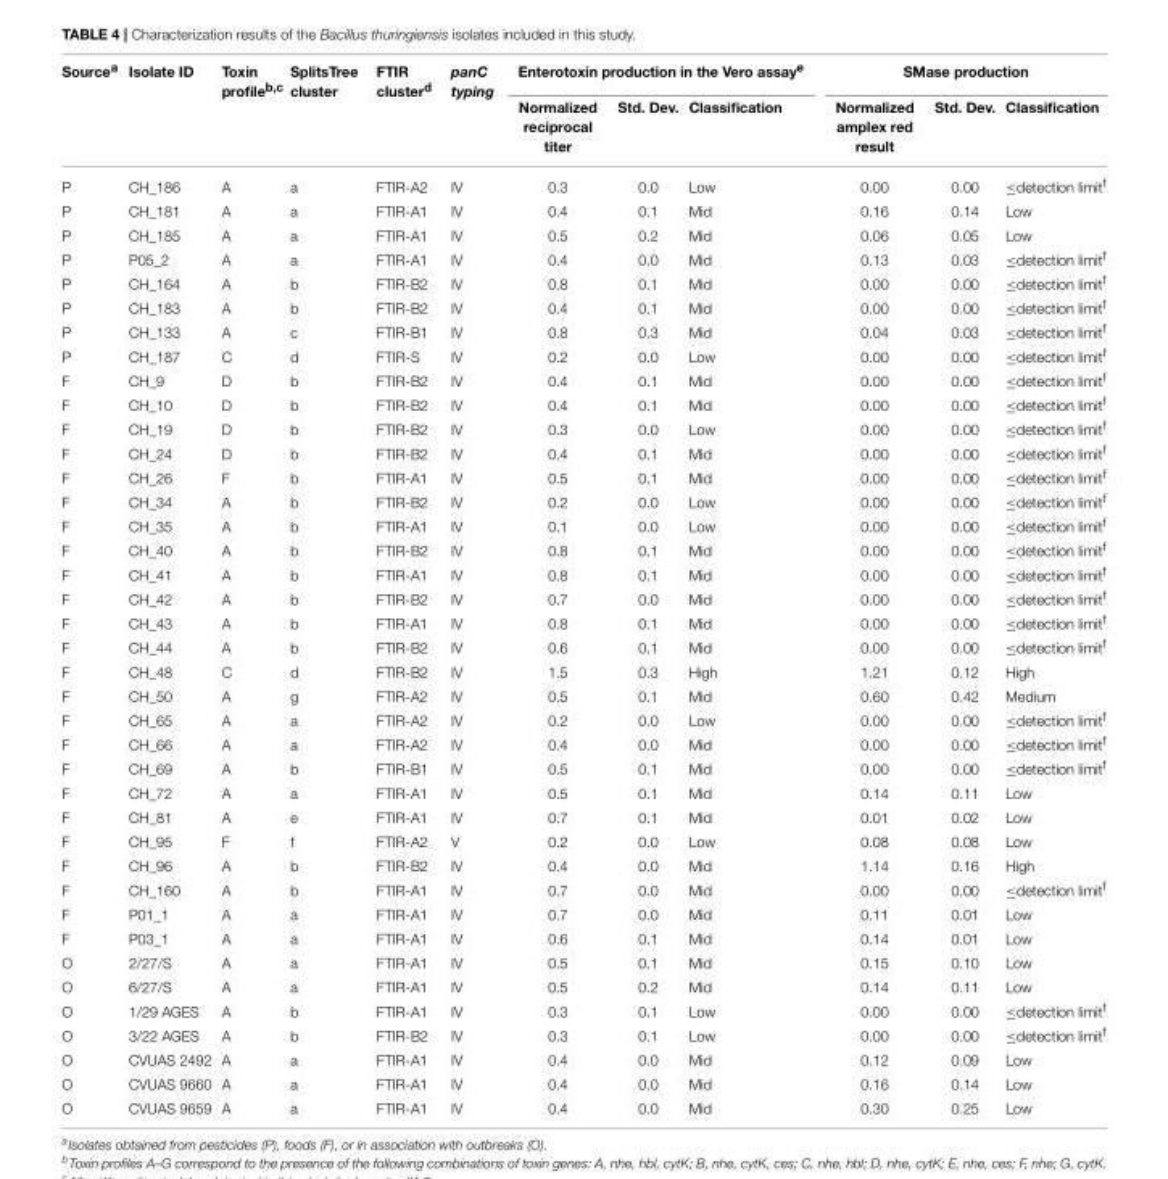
<table><thead><tr><td rowspan="2">Source<sup>a</sup></td><td rowspan="2">Isolate ID</td><td rowspan="2">Toxin profile<sup>b,c</sup></td><td rowspan="2">SplitsTree cluster</td><td rowspan="2">FTIR cluster<sup>d</sup></td><td rowspan="2">panC typing</td><td colspan="3">Enterotoxin production in the Vero assay<sup>e</sup></td><td colspan="3">SMase production</td></tr><tr><td>Normalized reciprocal titer</td><td>Std. Dev.</td><td>Classification</td><td>Normalized amplex red result</td><td>Std. Dev.</td><td>Classification</td></tr></thead><tbody><tr><td>P</td><td>CH_186</td><td>A</td><td>a</td><td>FTIR-A2</td><td>IV</td><td>0.3</td><td>0.0</td><td>Low</td><td>0.00</td><td>0.00</td><td>≤detection limit<sup>f</sup></td></tr><tr><td>P</td><td>CH_181</td><td>A</td><td>a</td><td>FTIR-A1</td><td>IV</td><td>0.4</td><td>0.1</td><td>Mid</td><td>0.16</td><td>0.14</td><td>Low</td></tr><tr><td>P</td><td>CH_185</td><td>A</td><td>a</td><td>FTIR-A1</td><td>IV</td><td>0.5</td><td>0.2</td><td>Mid</td><td>0.06</td><td>0.05</td><td>Low</td></tr><tr><td>P</td><td>P05_2</td><td>A</td><td>a</td><td>FTIR-A1</td><td>IV</td><td>0.4</td><td>0.0</td><td>Mid</td><td>0.13</td><td>0.03</td><td>≤detection limit<sup>f</sup></td></tr><tr><td>P</td><td>CH_164</td><td>A</td><td>b</td><td>FTIR-B2</td><td>IV</td><td>0.8</td><td>0.1</td><td>Mid</td><td>0.00</td><td>0.00</td><td>≤detection limit<sup>f</sup></td></tr><tr><td>P</td><td>CH_183</td><td>A</td><td>b</td><td>FTIR-B2</td><td>IV</td><td>0.4</td><td>0.1</td><td>Mid</td><td>0.00</td><td>0.00</td><td>≤detection limit<sup>f</sup></td></tr><tr><td>P</td><td>CH_133</td><td>A</td><td>c</td><td>FTIR-B1</td><td>IV</td><td>0.8</td><td>0.3</td><td>Mid</td><td>0.04</td><td>0.03</td><td>≤detection limit<sup>f</sup></td></tr><tr><td>P</td><td>CH_187</td><td>C</td><td>d</td><td>FTIR-S</td><td>IV</td><td>0.2</td><td>0.0</td><td>Low</td><td>0.00</td><td>0.00</td><td>≤detection limit<sup>f</sup></td></tr><tr><td>F</td><td>CH_9</td><td>D</td><td>b</td><td>FTIR-B2</td><td>IV</td><td>0.4</td><td>0.1</td><td>Mid</td><td>0.00</td><td>0.00</td><td>≤detection limit<sup>f</sup></td></tr><tr><td>F</td><td>CH_10</td><td>D</td><td>b</td><td>FTIR-B2</td><td>IV</td><td>0.4</td><td>0.1</td><td>Mid</td><td>0.00</td><td>0.00</td><td>≤detection limit<sup>f</sup></td></tr><tr><td>F</td><td>CH_19</td><td>D</td><td>b</td><td>FTIR-B2</td><td>IV</td><td>0.3</td><td>0.0</td><td>Low</td><td>0.00</td><td>0.00</td><td>≤detection limit<sup>f</sup></td></tr><tr><td>F</td><td>CH_24</td><td>D</td><td>b</td><td>FTIR-B2</td><td>IV</td><td>0.4</td><td>0.1</td><td>Mid</td><td>0.00</td><td>0.00</td><td>≤detection limit<sup>f</sup></td></tr><tr><td>F</td><td>CH_26</td><td>F</td><td>b</td><td>FTIR-A1</td><td>IV</td><td>0.5</td><td>0.1</td><td>Mid</td><td>0.00</td><td>0.00</td><td>≤detection limit<sup>f</sup></td></tr><tr><td>F</td><td>CH_34</td><td>A</td><td>b</td><td>FTIR-B2</td><td>IV</td><td>0.2</td><td>0.0</td><td>Low</td><td>0.00</td><td>0.00</td><td>≤detection limit<sup>f</sup></td></tr><tr><td>F</td><td>CH_35</td><td>A</td><td>b</td><td>FTIR-A1</td><td>IV</td><td>0.1</td><td>0.0</td><td>Low</td><td>0.00</td><td>0.00</td><td>≤detection limit<sup>f</sup></td></tr><tr><td>F</td><td>CH_40</td><td>A</td><td>b</td><td>FTIR-B2</td><td>IV</td><td>0.8</td><td>0.1</td><td>Mid</td><td>0.00</td><td>0.00</td><td>≤detection limit<sup>f</sup></td></tr><tr><td>F</td><td>CH_41</td><td>A</td><td>b</td><td>FTIR-A1</td><td>IV</td><td>0.8</td><td>0.1</td><td>Mid</td><td>0.00</td><td>0.00</td><td>≤detection limit<sup>f</sup></td></tr><tr><td>F</td><td>CH_42</td><td>A</td><td>b</td><td>FTIR-B2</td><td>IV</td><td>0.7</td><td>0.0</td><td>Mid</td><td>0.00</td><td>0.00</td><td>≤detection limit<sup>f</sup></td></tr><tr><td>F</td><td>CH_43</td><td>A</td><td>b</td><td>FTIR-A1</td><td>IV</td><td>0.8</td><td>0.1</td><td>Mid</td><td>0.00</td><td>0.00</td><td>≤detection limit<sup>f</sup></td></tr><tr><td>F</td><td>CH_44</td><td>A</td><td>b</td><td>FTIR-B2</td><td>IV</td><td>0.6</td><td>0.1</td><td>Mid</td><td>0.00</td><td>0.00</td><td>≤detection limit<sup>f</sup></td></tr><tr><td>F</td><td>CH_48</td><td>C</td><td>d</td><td>FTIR-B2</td><td>IV</td><td>1.5</td><td>0.3</td><td>High</td><td>1.21</td><td>0.12</td><td>High</td></tr><tr><td>F</td><td>CH_50</td><td>A</td><td>g</td><td>FTIR-A2</td><td>IV</td><td>0.5</td><td>0.1</td><td>Mid</td><td>0.60</td><td>0.42</td><td>Medium</td></tr><tr><td>F</td><td>CH_65</td><td>A</td><td>a</td><td>FTIR-A2</td><td>IV</td><td>0.2</td><td>0.0</td><td>Low</td><td>0.00</td><td>0.00</td><td>≤detection limit<sup>f</sup></td></tr><tr><td>F</td><td>CH_66</td><td>A</td><td>a</td><td>FTIR-A2</td><td>IV</td><td>0.4</td><td>0.0</td><td>Mid</td><td>0.00</td><td>0.00</td><td>≤detection limit<sup>f</sup></td></tr><tr><td>F</td><td>CH_69</td><td>A</td><td>b</td><td>FTIR-B1</td><td>IV</td><td>0.5</td><td>0.1</td><td>Mid</td><td>0.00</td><td>0.00</td><td>≤detection limit<sup>f</sup></td></tr><tr><td>F</td><td>CH_72</td><td>A</td><td>a</td><td>FTIR-A1</td><td>IV</td><td>0.5</td><td>0.1</td><td>Mid</td><td>0.14</td><td>0.11</td><td>Low</td></tr><tr><td>F</td><td>CH_81</td><td>A</td><td>e</td><td>FTIR-A1</td><td>IV</td><td>0.7</td><td>0.1</td><td>Mid</td><td>0.01</td><td>0.02</td><td>Low</td></tr><tr><td>F</td><td>CH_95</td><td>F</td><td>f</td><td>FTIR-A2</td><td>V</td><td>0.2</td><td>0.0</td><td>Low</td><td>0.08</td><td>0.08</td><td>Low</td></tr><tr><td>F</td><td>CH_96</td><td>A</td><td>b</td><td>FTIR-B2</td><td>IV</td><td>0.4</td><td>0.0</td><td>Mid</td><td>1.14</td><td>0.16</td><td>High</td></tr><tr><td>F</td><td>CH_160</td><td>A</td><td>b</td><td>FTIR-A1</td><td>IV</td><td>0.7</td><td>0.0</td><td>Mid</td><td>0.00</td><td>0.00</td><td>≤detection limit<sup>f</sup></td></tr><tr><td>F</td><td>P01_1</td><td>A</td><td>a</td><td>FTIR-A1</td><td>IV</td><td>0.7</td><td>0.0</td><td>Mid</td><td>0.11</td><td>0.01</td><td>Low</td></tr><tr><td>F</td><td>P03_1</td><td>A</td><td>a</td><td>FTIR-A1</td><td>IV</td><td>0.6</td><td>0.1</td><td>Mid</td><td>0.14</td><td>0.01</td><td>Low</td></tr><tr><td>O</td><td>2/27/S</td><td>A</td><td>a</td><td>FTIR-A1</td><td>IV</td><td>0.5</td><td>0.1</td><td>Mid</td><td>0.15</td><td>0.10</td><td>Low</td></tr><tr><td>O</td><td>6/27/S</td><td>A</td><td>a</td><td>FTIR-A1</td><td>IV</td><td>0.5</td><td>0.2</td><td>Mid</td><td>0.14</td><td>0.11</td><td>Low</td></tr><tr><td>O</td><td>1/29 AGES</td><td>A</td><td>b</td><td>FTIR-A1</td><td>IV</td><td>0.3</td><td>0.1</td><td>Low</td><td>0.00</td><td>0.00</td><td>≤detection limit<sup>f</sup></td></tr><tr><td>O</td><td>3/22 AGES</td><td>A</td><td>b</td><td>FTIR-B2</td><td>IV</td><td>0.3</td><td>0.1</td><td>Low</td><td>0.00</td><td>0.00</td><td>≤detection limit<sup>f</sup></td></tr><tr><td>O</td><td>CVUAS 2492</td><td>A</td><td>a</td><td>FTIR-A1</td><td>IV</td><td>0.4</td><td>0.0</td><td>Mid</td><td>0.12</td><td>0.09</td><td>Low</td></tr><tr><td>O</td><td>CVUAS 9660</td><td>A</td><td>a</td><td>FTIR-A1</td><td>IV</td><td>0.4</td><td>0.0</td><td>Mid</td><td>0.16</td><td>0.14</td><td>Low</td></tr><tr><td>O</td><td>CVUAS 9659</td><td>A</td><td>a</td><td>FTIR-A1</td><td>IV</td><td>0.4</td><td>0.0</td><td>Mid</td><td>0.30</td><td>0.25</td><td>Low</td></tr></tbody></table>